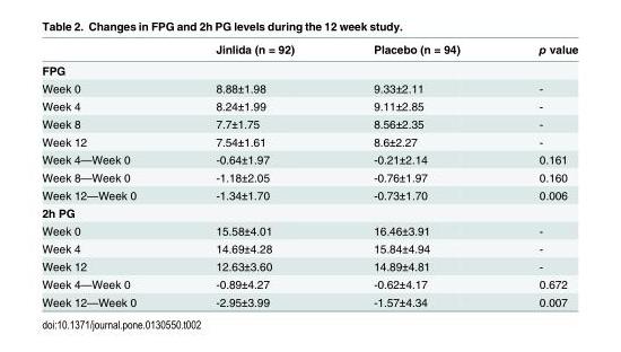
<table><thead><tr><td></td><td>Jinlida (n = 92)</td><td>Placebo (n = 94)</td><td>p value</td></tr></thead><tbody><tr><td colspan="4">FPG</td></tr><tr><td>Week 0</td><td>8.88±1.98</td><td>9.33±2.11</td><td>-</td></tr><tr><td>Week 4</td><td>8.24±1.99</td><td>9.11±2.85</td><td>-</td></tr><tr><td>Week 8</td><td>7.7±1.75</td><td>8.56±2.35</td><td>-</td></tr><tr><td>Week 12</td><td>7.54±1.61</td><td>8.6±2.27</td><td>-</td></tr><tr><td>Week 4—Week 0</td><td>-0.64±1.97</td><td>-0.21±2.14</td><td>0.161</td></tr><tr><td>Week 8—Week 0</td><td>-1.18±2.05</td><td>-0.76±1.97</td><td>0.160</td></tr><tr><td>Week 12—Week 0</td><td>-1.34±1.70</td><td>-0.73±1.70</td><td>0.006</td></tr><tr><td colspan="4">2h PG</td></tr><tr><td>Week 0</td><td>15.58±4.01</td><td>16.46±3.91</td><td>-</td></tr><tr><td>Week 4</td><td>14.69±4.28</td><td>15.84±4.94</td><td>-</td></tr><tr><td>Week 12</td><td>12.63±3.60</td><td>14.89±4.81</td><td>-</td></tr><tr><td>Week 4—Week 0</td><td>-0.89±4.27</td><td>-0.62±4.17</td><td>0.672</td></tr><tr><td>Week 12—Week 0</td><td>-2.95±3.99</td><td>-1.57±4.34</td><td>0.007</td></tr></tbody></table>